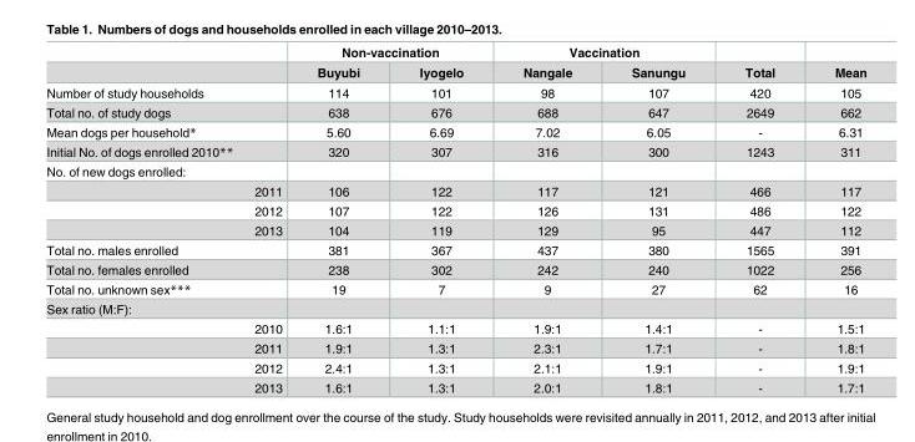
<table><thead><tr><td rowspan="2"></td><td colspan="2">Non-vaccination</td><td colspan="2">Vaccination</td><td rowspan="2">Total</td><td rowspan="2">Mean</td></tr><tr><td>Buyubi</td><td>Iyogelo</td><td>Nangale</td><td>Sanungu</td></tr></thead><tbody><tr><td>Number of study households</td><td>114</td><td>101</td><td>98</td><td>107</td><td>420</td><td>105</td></tr><tr><td>Total no. of study dogs</td><td>638</td><td>676</td><td>688</td><td>647</td><td>2649</td><td>662</td></tr><tr><td>Mean dogs per household*</td><td>5.60</td><td>6.69</td><td>7.02</td><td>6.05</td><td>-</td><td>6.31</td></tr><tr><td>Initial No. of dogs enrolled 2010**</td><td>320</td><td>307</td><td>316</td><td>300</td><td>1243</td><td>311</td></tr><tr><td colspan="7">No. of new dogs enrolled:</td></tr><tr><td>2011</td><td>106</td><td>122</td><td>117</td><td>121</td><td>466</td><td>117</td></tr><tr><td>2012</td><td>107</td><td>122</td><td>126</td><td>131</td><td>486</td><td>122</td></tr><tr><td>2013</td><td>104</td><td>119</td><td>129</td><td>95</td><td>447</td><td>112</td></tr><tr><td>Total no. males enrolled</td><td>381</td><td>367</td><td>437</td><td>380</td><td>1565</td><td>391</td></tr><tr><td>Total no. females enrolled</td><td>238</td><td>302</td><td>242</td><td>240</td><td>1022</td><td>256</td></tr><tr><td>Total no. unknown sex***</td><td>19</td><td>7</td><td>9</td><td>27</td><td>62</td><td>16</td></tr><tr><td colspan="7">Sex ratio (M:F):</td></tr><tr><td>2010</td><td>1.6:1</td><td>1.1:1</td><td>1.9:1</td><td>1.4:1</td><td>-</td><td>1.5:1</td></tr><tr><td>2011</td><td>1.9:1</td><td>1.3:1</td><td>2.3:1</td><td>1.7:1</td><td>-</td><td>1.8:1</td></tr><tr><td>2012</td><td>2.4:1</td><td>1.3:1</td><td>2.1:1</td><td>1.9:1</td><td>-</td><td>1.9:1</td></tr><tr><td>2013</td><td>1.6:1</td><td>1.3:1</td><td>2.0:1</td><td>1.8:1</td><td>-</td><td>1.7:1</td></tr></tbody></table>